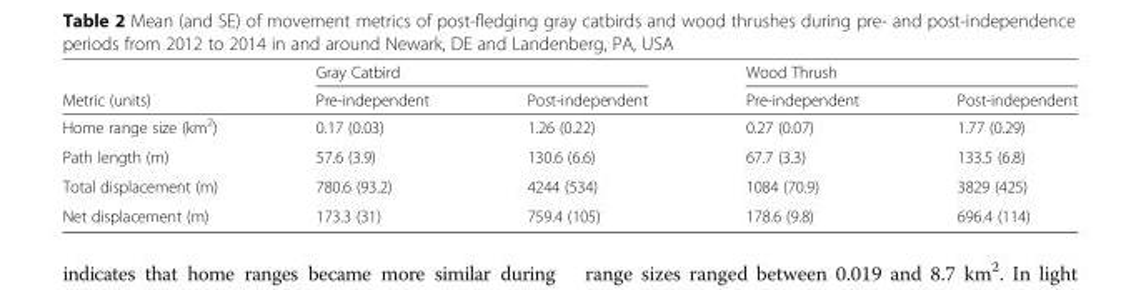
<table><thead><tr><td rowspan="2">Metric (units)</td><td colspan="2">Gray Catbird</td><td colspan="2">Wood Thrush</td></tr><tr><td>Pre-independent</td><td>Post-independent</td><td>Pre-independent</td><td>Post-independent</td></tr></thead><tbody><tr><td>Home range size (km<sup>2</sup>)</td><td>0.17 (0.03)</td><td>1.26 (0.22)</td><td>0.27 (0.07)</td><td>1.77 (0.29)</td></tr><tr><td>Path length (m)</td><td>57.6 (3.9)</td><td>130.6 (6.6)</td><td>67.7 (3.3)</td><td>133.5 (6.8)</td></tr><tr><td>Total displacement (m)</td><td>780.6 (93.2)</td><td>4244 (534)</td><td>1084 (70.9)</td><td>3829 (425)</td></tr><tr><td>Net displacement (m)</td><td>173.3 (31)</td><td>759.4 (105)</td><td>178.6 (9.8)</td><td>696.4 (114)</td></tr></tbody></table>